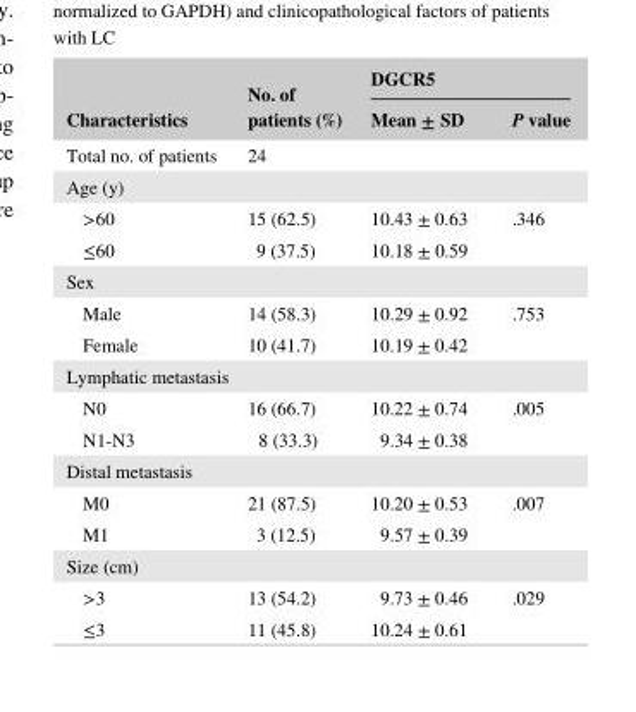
<table><thead><tr><td rowspan="2">Characteristics</td><td rowspan="2">No. of patients (%)</td><td colspan="2">DGCR5</td></tr><tr><td>Mean ± SD</td><td>P value</td></tr></thead><tbody><tr><td>Total no. of patients</td><td>24</td><td></td><td></td></tr><tr><td colspan="4">Age (y)</td></tr><tr><td>&gt;60</td><td>15 (62.5)</td><td>10.43 ± 0.63</td><td>.346</td></tr><tr><td>≤60</td><td>9 (37.5)</td><td>10.18 ± 0.59</td><td></td></tr><tr><td colspan="4">Sex</td></tr><tr><td>Male</td><td>14 (58.3)</td><td>10.29 ± 0.92</td><td>.753</td></tr><tr><td>Female</td><td>10 (41.7)</td><td>10.19 ± 0.42</td><td></td></tr><tr><td colspan="4">Lymphatic metastasis</td></tr><tr><td>N0</td><td>16 (66.7)</td><td>10.22 ± 0.74</td><td>.005</td></tr><tr><td>N1- N3</td><td>8 (33.3)</td><td>9.34 ± 0.38</td><td></td></tr><tr><td colspan="4">Distal metastasis</td></tr><tr><td>M0</td><td>21 (87.5)</td><td>10.20 ± 0.53</td><td>.007</td></tr><tr><td>M1</td><td>3 (12.5)</td><td>9.57 ± 0.39</td><td></td></tr><tr><td colspan="4">Size (cm)</td></tr><tr><td>&gt;3</td><td>13 (54.2)</td><td>9.73 ± 0.46</td><td>.029</td></tr><tr><td>≤3</td><td>11 (45.8)</td><td>10.24 ± 0.61</td><td></td></tr></tbody></table>